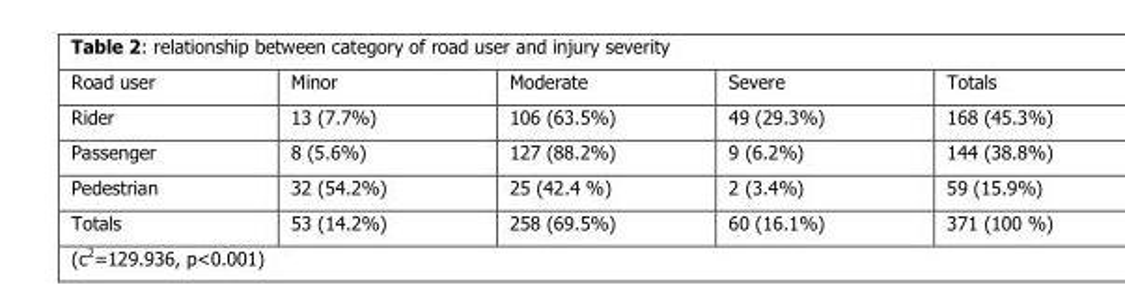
<table><thead><tr><td>Road user</td><td>Minor</td><td>Moderate</td><td>Severe</td><td>Totals</td></tr></thead><tbody><tr><td>Rider</td><td>13 (7.7%)</td><td>106 (63.5%)</td><td>49 (29.3%)</td><td>168 (45.3%)</td></tr><tr><td>Passenger</td><td>8 (5.6%)</td><td>127 (88.2%)</td><td>9 (6.2%)</td><td>144 (38.8%)</td></tr><tr><td>Pedestrian</td><td>32 (54.2%)</td><td>25 (42.4 %)</td><td>2 (3.4%)</td><td>59 (15.9%)</td></tr><tr><td>Totals</td><td>53 (14.2%)</td><td>258 (69.5%)</td><td>60 (16.1%)</td><td>371 (100 %)</td></tr></tbody></table>